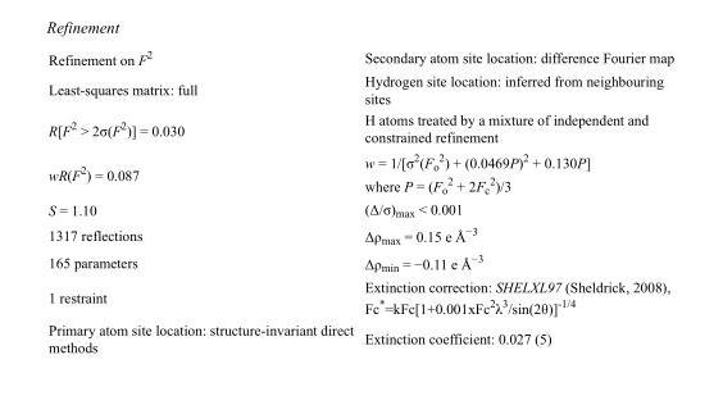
<table><tbody><tr><td>Refinement on F<sup>2</sup></td><td>Secondary atom site location: difference Fourier map</td></tr><tr><td>Least-squares matrix: full</td><td>Hydrogen site location: inferred from neighbouring sites</td></tr><tr><td>R[F<sup>2</sup> &gt; 2σ(F<sup>2</sup>)] = 0.030</td><td>H atoms treated by a mixture of independent and constrained refinement</td></tr><tr><td>wR(F<sup>2</sup>) = 0.087</td><td>w = 1/[σ<sup>2</sup>(F<sub>o</sub> <sup>2</sup>) + (0.0469P)<sup>2</sup> + 0.130P] where P = (F<sub>o</sub> <sup>2</sup> + 2F<sub>c</sub> <sup>2</sup>)/3</td></tr><tr><td>S = 1.10</td><td>(Δ/σ)<sub>max</sub> &lt; 0.001</td></tr><tr><td>1317 reflections</td><td>Δρ<sub>max</sub> = 0.15 e Å<sup>−3</sup></td></tr><tr><td>165 parameters</td><td>Δρ<sub>min</sub> = −0.11 e Å<sup>−3</sup></td></tr><tr><td>1 restraint</td><td>Extinction correction: SHELXL97 (Sheldrick, 2008), Fc*=kFc[1+0.001xFc<sup>2</sup>λ<sup>3</sup>/sin(2θ)]<sup>-1/4</sup></td></tr><tr><td>Primary atom site location: structure-invariant direct methods</td><td>Extinction coefficient: 0.027 (5)</td></tr></tbody></table>